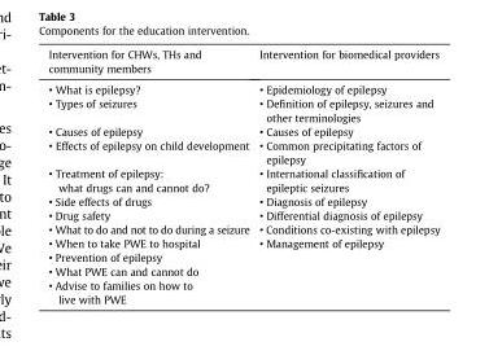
<table><thead><tr><td>Intervention for CHWs, THs and community members</td><td>Intervention for biomedical providers</td></tr></thead><tbody><tr><td>• What is epilepsy?</td><td>• Epidemiology of epilepsy</td></tr><tr><td>• Types of seizures</td><td>• Definition of epilepsy, seizures and other terminologies</td></tr><tr><td>• Causes of epilepsy</td><td>• Causes of epilepsy</td></tr><tr><td>• Effects of epilepsy on child development</td><td>• Common precipitating factors of epilepsy</td></tr><tr><td>• Treatment of epilepsy: what drugs can and cannot do?</td><td>• International classification of epileptic seizures</td></tr><tr><td>• Side effects of drugs</td><td>• Diagnosis of epilepsy</td></tr><tr><td>• Drug safety</td><td>• Differential diagnosis of epilepsy</td></tr><tr><td>• What to do and not to do during a seizure</td><td>• Conditions co-existing with epilepsy</td></tr><tr><td>• When to take PWE to hospital</td><td>• Management of epilepsy</td></tr><tr><td colspan="2">• Prevention of epilepsy</td></tr><tr><td colspan="2">• What PWE can and cannot do</td></tr><tr><td>• Advise to families on how to live with PWE</td><td></td></tr></tbody></table>